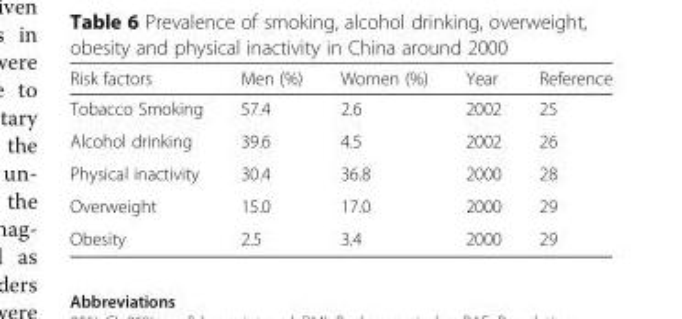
<table><thead><tr><td>Risk factors</td><td>Men (%)</td><td>Women (%)</td><td>Year</td><td>Reference</td></tr></thead><tbody><tr><td>Tobacco Smoking</td><td>57.4</td><td>2.6</td><td>2002</td><td>25</td></tr><tr><td>Alcohol drinking</td><td>39.6</td><td>4.5</td><td>2002</td><td>26</td></tr><tr><td>Physical inactivity</td><td>30.4</td><td>36.8</td><td>2000</td><td>28</td></tr><tr><td>Overweight</td><td>15.0</td><td>17.0</td><td>2000</td><td>29</td></tr><tr><td>Obesity</td><td>2.5</td><td>3.4</td><td>2000</td><td>29</td></tr></tbody></table>